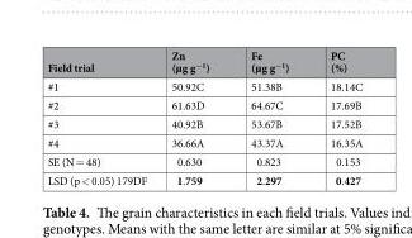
<table><thead><tr><td>Field trial</td><td>Zn (µg g<sup>−1</sup>)</td><td>Fe (µg g<sup>−1</sup>)</td><td>PC (%)</td></tr></thead><tbody><tr><td>#1</td><td>50.92C</td><td>51.38B</td><td>18.14C</td></tr><tr><td>#2</td><td>61.63D</td><td>64.67C</td><td>17.69B</td></tr><tr><td>#3</td><td>40.92B</td><td>53.67B</td><td>17.52B</td></tr><tr><td>#4</td><td>36.66A</td><td>43.37A</td><td>16.35A</td></tr><tr><td>SE (N = 48)</td><td>0.630</td><td>0.823</td><td>0.153</td></tr><tr><td>LSD (p &lt; 0.05) 179DF</td><td>1.759</td><td>2.297</td><td>0.427</td></tr></tbody></table>